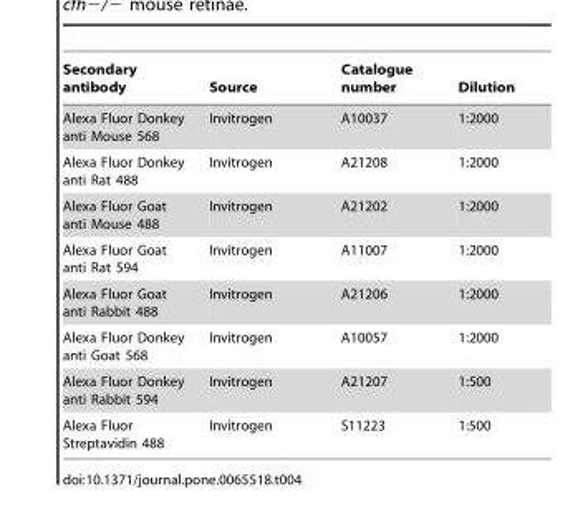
<table><thead><tr><td>Secondary antibody</td><td>Source</td><td>Catalogue number</td><td>Dilution</td></tr></thead><tbody><tr><td>Alexa Fluor Donkey anti Mouse 568</td><td>Invitrogen</td><td>A10037</td><td>1:2000</td></tr><tr><td>Alexa Fluor Donkey anti Rat 488</td><td>Invitrogen</td><td>A21208</td><td>1:2000</td></tr><tr><td>Alexa Fluor Goat anti Mouse 488</td><td>Invitrogen</td><td>A21202</td><td>1:2000</td></tr><tr><td>Alexa Fluor Goat anti Rat 594</td><td>Invitrogen</td><td>A11007</td><td>1:2000</td></tr><tr><td>Alexa Fluor Goat anti Rabbit 488</td><td>Invitrogen</td><td>A21206</td><td>1:2000</td></tr><tr><td>Alexa Fluor Donkey anti Goat 568</td><td>Invitrogen</td><td>A10057</td><td>1:2000</td></tr><tr><td>Alexa Fluor Donkey anti Rabbit 594</td><td>Invitrogen</td><td>A21207</td><td>1:500</td></tr><tr><td>Alexa Fluor Streptavidin 488</td><td>Invitrogen</td><td>S11223</td><td>1:500</td></tr></tbody></table>